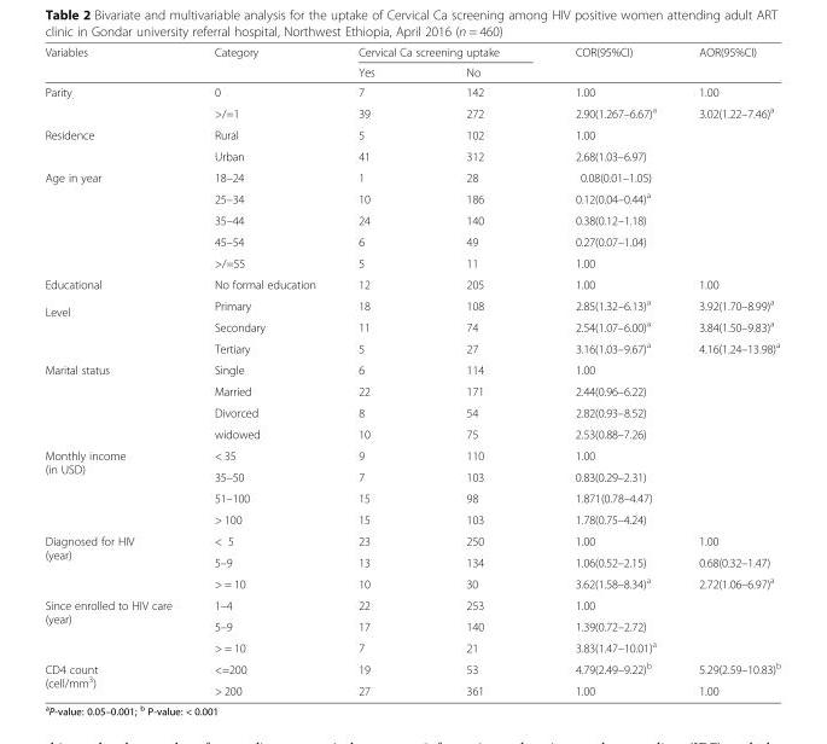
<table><thead><tr><td rowspan="2">Variables</td><td rowspan="2">Category</td><td colspan="2">Cervical Ca screening uptake</td><td rowspan="2">COR(95%CI)</td><td rowspan="2">AOR(95%CI)</td></tr><tr><td>Yes</td><td>No</td></tr></thead><tbody><tr><td rowspan="2">Parity</td><td>0</td><td>7</td><td>142</td><td>1.00</td><td>1.00</td></tr><tr><td>&gt;/=1</td><td>39</td><td>272</td><td>2.90(1.267–6.67)<sup>a</sup></td><td>3.02(1.22–7.46)<sup>a</sup></td></tr><tr><td rowspan="2">Residence</td><td>Rural</td><td>5</td><td>102</td><td>1.00</td><td></td></tr><tr><td>Urban</td><td>41</td><td>312</td><td>2.68(1.03–6.97)</td><td></td></tr><tr><td rowspan="5">Age in year</td><td>18–24</td><td>1</td><td>28</td><td>0.08(0.01–1.05)</td><td></td></tr><tr><td>25–34</td><td>10</td><td>186</td><td>0.12(0.04–0.44)<sup>a</sup></td><td></td></tr><tr><td>35–44</td><td>24</td><td>140</td><td>0.38(0.12–1.18)</td><td></td></tr><tr><td>45–54</td><td>6</td><td>49</td><td>0.27(0.07–1.04)</td><td></td></tr><tr><td>&gt;/=55</td><td>5</td><td>11</td><td>1.00</td><td></td></tr><tr><td rowspan="4">Educational Level</td><td>No formal education</td><td>12</td><td>205</td><td>1.00</td><td>1.00</td></tr><tr><td>Primary</td><td>18</td><td>108</td><td>2.85(1.32–6.13)<sup>a</sup></td><td>3.92(1.70–8.99)<sup>a</sup></td></tr><tr><td>Secondary</td><td>11</td><td>74</td><td>2.54(1.07–6.00)<sup>a</sup></td><td>3.84(1.50–9.83)<sup>a</sup></td></tr><tr><td>Tertiary</td><td>5</td><td>27</td><td>3.16(1.03–9.67)<sup>a</sup></td><td>4.16(1.24–13.98)<sup>a</sup></td></tr><tr><td rowspan="4">Marital status</td><td>Single</td><td>6</td><td>114</td><td>1.00</td><td></td></tr><tr><td>Married</td><td>22</td><td>171</td><td>2.44(0.96–6.22)</td><td></td></tr><tr><td>Divorced</td><td>8</td><td>54</td><td>2.82(0.93–8.52)</td><td></td></tr><tr><td>widowed</td><td>10</td><td>75</td><td>2.53(0.88–7.26)</td><td></td></tr><tr><td rowspan="4">Monthly income (in USD)</td><td>&lt; 35</td><td>9</td><td>110</td><td>1.00</td><td></td></tr><tr><td>35–50</td><td>7</td><td>103</td><td>0.83(0.29–2.31)</td><td></td></tr><tr><td>51–100</td><td>15</td><td>98</td><td>1.871(0.78–4.47)</td><td></td></tr><tr><td>&gt; 100</td><td>15</td><td>103</td><td>1.78(0.75–4.24)</td><td></td></tr><tr><td rowspan="3">Diagnosed for HIV (year)</td><td>&lt; 5</td><td>23</td><td>250</td><td>1.00</td><td>1.00</td></tr><tr><td>5–9</td><td>13</td><td>134</td><td>1.06(0.52–2.15)</td><td>0.68(0.32–1.47)</td></tr><tr><td>&gt; = 10</td><td>10</td><td>30</td><td>3.62(1.58–8.34)<sup>a</sup></td><td>2.72(1.06–6.97)<sup>a</sup></td></tr><tr><td rowspan="3">Since enrolled to HIV care (year)</td><td>1–4</td><td>22</td><td>253</td><td>1.00</td><td></td></tr><tr><td>5–9</td><td>17</td><td>140</td><td>1.39(0.72–2.72)</td><td></td></tr><tr><td>&gt; = 10</td><td>7</td><td>21</td><td>3.83(1.47–10.01)<sup>a</sup></td><td></td></tr><tr><td rowspan="2">CD4 count (cell/mm<sup>3</sup>)</td><td>&lt;=200</td><td>19</td><td>53</td><td>4.79(2.49–9.22)<sup>b</sup></td><td>5.29(2.59–10.83)<sup>b</sup></td></tr><tr><td>&gt; 200</td><td>27</td><td>361</td><td>1.00</td><td>1.00</td></tr></tbody></table>